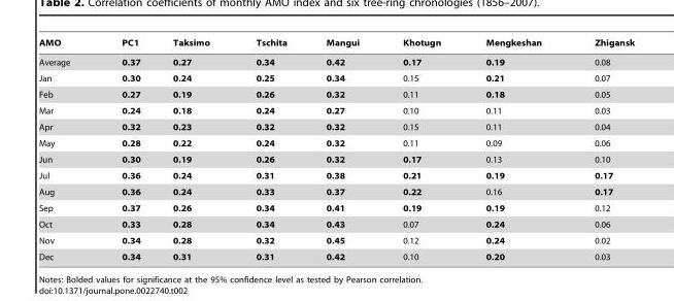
<table><thead><tr><td>AMO</td><td>PC1</td><td>Taksimo</td><td>Tschita</td><td>Mangui</td><td>Khotugn</td><td>Mengkeshan</td><td>Zhigansk</td></tr></thead><tbody><tr><td>Average</td><td>0.37</td><td>0.27</td><td>0.34</td><td>0.42</td><td>0.17</td><td>0.19</td><td>0.08</td></tr><tr><td>Jan</td><td>0.30</td><td>0.24</td><td>0.25</td><td>0.34</td><td>0.15</td><td>0.21</td><td>0.07</td></tr><tr><td>Feb</td><td>0.27</td><td>0.19</td><td>0.26</td><td>0.32</td><td>0.11</td><td>0.18</td><td>0.05</td></tr><tr><td>Mar</td><td>0.24</td><td>0.18</td><td>0.24</td><td>0.27</td><td>0.10</td><td>0.11</td><td>0.03</td></tr><tr><td>Apr</td><td>0.32</td><td>0.23</td><td>0.32</td><td>0.32</td><td>0.15</td><td>0.11</td><td>0.04</td></tr><tr><td>May</td><td>0.28</td><td>0.22</td><td>0.24</td><td>0.32</td><td>0.11</td><td>0.09</td><td>0.06</td></tr><tr><td>Jun</td><td>0.30</td><td>0.19</td><td>0.26</td><td>0.32</td><td>0.17</td><td>0.13</td><td>0.10</td></tr><tr><td>Jul</td><td>0.36</td><td>0.24</td><td>0.31</td><td>0.38</td><td>0.21</td><td>0.19</td><td>0.17</td></tr><tr><td>Aug</td><td>0.36</td><td>0.24</td><td>0.33</td><td>0.37</td><td>0.22</td><td>0.16</td><td>0.17</td></tr><tr><td>Sep</td><td>0.37</td><td>0.26</td><td>0.34</td><td>0.41</td><td>0.19</td><td>0.19</td><td>0.12</td></tr><tr><td>Oct</td><td>0.33</td><td>0.28</td><td>0.34</td><td>0.43</td><td>0.07</td><td>0.24</td><td>0.06</td></tr><tr><td>Nov</td><td>0.34</td><td>0.28</td><td>0.32</td><td>0.45</td><td>0.12</td><td>0.24</td><td>0.02</td></tr><tr><td>Dec</td><td>0.34</td><td>0.31</td><td>0.31</td><td>0.42</td><td>0.10</td><td>0.20</td><td>0.03</td></tr></tbody></table>